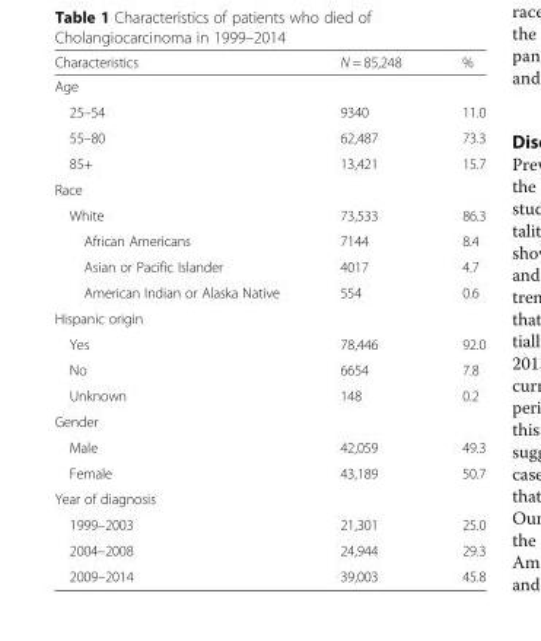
<table><thead><tr><td>Characteristics</td><td>N = 85,248</td><td>%</td></tr></thead><tbody><tr><td colspan="3">Age</td></tr><tr><td>25–54</td><td>9340</td><td>11.0</td></tr><tr><td>55–80</td><td>62,487</td><td>73.3</td></tr><tr><td>85+</td><td>13,421</td><td>15.7</td></tr><tr><td colspan="3">Race</td></tr><tr><td>White</td><td>73,533</td><td>86.3</td></tr><tr><td>African Americans</td><td>7144</td><td>8.4</td></tr><tr><td>Asian or Pacific Islander</td><td>4017</td><td>4.7</td></tr><tr><td>American Indian or Alaska Native</td><td>554</td><td>0.6</td></tr><tr><td colspan="3">Hispanic origin</td></tr><tr><td>Yes</td><td>78,446</td><td>92.0</td></tr><tr><td>No</td><td>6654</td><td>7.8</td></tr><tr><td>Unknown</td><td>148</td><td>0.2</td></tr><tr><td colspan="3">Gender</td></tr><tr><td>Male</td><td>42,059</td><td>49.3</td></tr><tr><td>Female</td><td>43,189</td><td>50.7</td></tr><tr><td colspan="3">Year of diagnosis</td></tr><tr><td>1999–2003</td><td>21,301</td><td>25.0</td></tr><tr><td>2004–2008</td><td>24,944</td><td>29.3</td></tr><tr><td>2009–2014</td><td>39,003</td><td>45.8</td></tr></tbody></table>